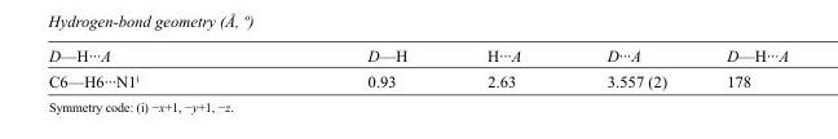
<table><tbody><tr><td>D—H···A</td><td>D—H</td><td>H···A</td><td>D···A</td><td>D—H···A</td></tr><tr><td>C6—H6···N1<sup>i</sup></td><td>0.93</td><td>2.63</td><td>3.557 (2)</td><td>178</td></tr></tbody></table>